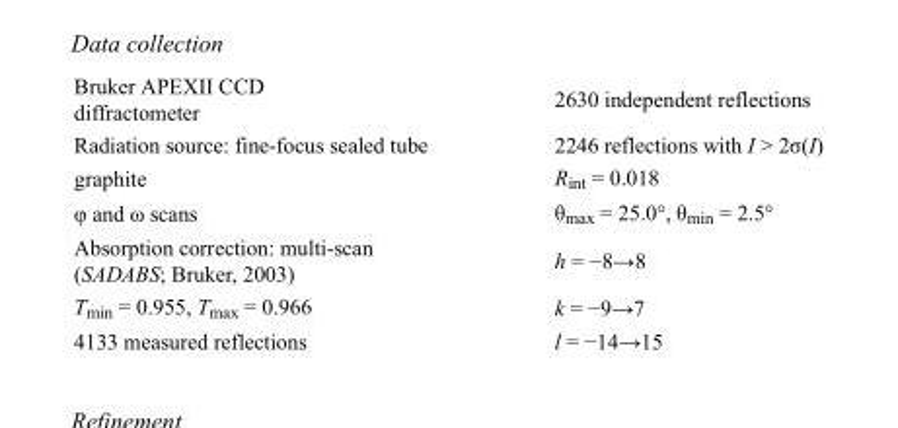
<table><tbody><tr><td>Bruker APEXII CCD diffractometer</td><td>2630 independent reflections</td></tr><tr><td>Radiation source: fine-focus sealed tube</td><td>2246 reflections with I &gt; 2σ(I)</td></tr><tr><td>graphite</td><td>R<sub>int</sub> = 0.018</td></tr><tr><td>φ and ω scans</td><td>θ<sub>max</sub> = 25.0°, θ<sub>min</sub> = 2.5°</td></tr><tr><td>Absorption correction: multi-scan (SADABS; Bruker, 2003)</td><td>h = −8→8</td></tr><tr><td>T<sub>min</sub> = 0.955, T<sub>max</sub> = 0.966</td><td>k = −9→7</td></tr><tr><td>4133 measured reflections</td><td>l = −14→15</td></tr></tbody></table>